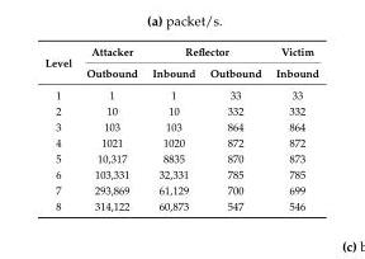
<table><thead><tr><td rowspan="2">Level</td><td rowspan="2">Attacker Outbound</td><td colspan="2">Reflector</td><td rowspan="2">Victim Inbound</td></tr><tr><td>Inbound</td><td>Outbound</td></tr></thead><tbody><tr><td>1</td><td>1</td><td>1</td><td>33</td><td>33</td></tr><tr><td>2</td><td>10</td><td>10</td><td>332</td><td>332</td></tr><tr><td>3</td><td>103</td><td>103</td><td>864</td><td>864</td></tr><tr><td>4</td><td>1021</td><td>1020</td><td>872</td><td>872</td></tr><tr><td>5</td><td>10,317</td><td>8835</td><td>870</td><td>873</td></tr><tr><td>6</td><td>103,331</td><td>32,331</td><td>785</td><td>785</td></tr><tr><td>7</td><td>293,869</td><td>61,129</td><td>700</td><td>699</td></tr><tr><td>8</td><td>314,122</td><td>60,873</td><td>547</td><td>546</td></tr></tbody></table>